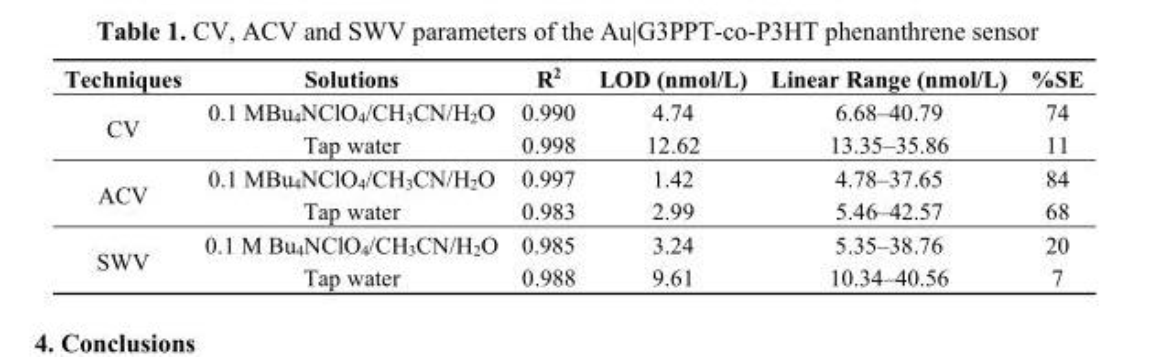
<table><thead><tr><td>Techniques</td><td>Solutions</td><td>R<sup>2</sup></td><td>LOD (nmol/L)</td><td>Linear Range (nmol/L)</td><td>%SE</td></tr></thead><tbody><tr><td rowspan="2">CV</td><td>0.1 MBu<sub>4</sub>NClO<sub>4</sub>/CH<sub>3</sub>CN/H<sub>2</sub>O</td><td>0.990</td><td>4.74</td><td>6.68–40.79</td><td>74</td></tr><tr><td>Tap water</td><td>0.998</td><td>12.62</td><td>13.35–35.86</td><td>11</td></tr><tr><td rowspan="2">ACV</td><td>0.1 MBu<sub>4</sub>NClO<sub>4</sub>/CH<sub>3</sub>CN/H<sub>2</sub>O</td><td>0.997</td><td>1.42</td><td>4.78–37.65</td><td>84</td></tr><tr><td>Tap water</td><td>0.983</td><td>2.99</td><td>5.46–42.57</td><td>68</td></tr><tr><td rowspan="2">SWV</td><td>0.1 M Bu<sub>4</sub>NClO<sub>4</sub>/CH<sub>3</sub>CN/H<sub>2</sub>O</td><td>0.985</td><td>3.24</td><td>5.35–38.76</td><td>20</td></tr><tr><td>Tap water</td><td>0.988</td><td>9.61</td><td>10.34–40.56</td><td>7</td></tr></tbody></table>